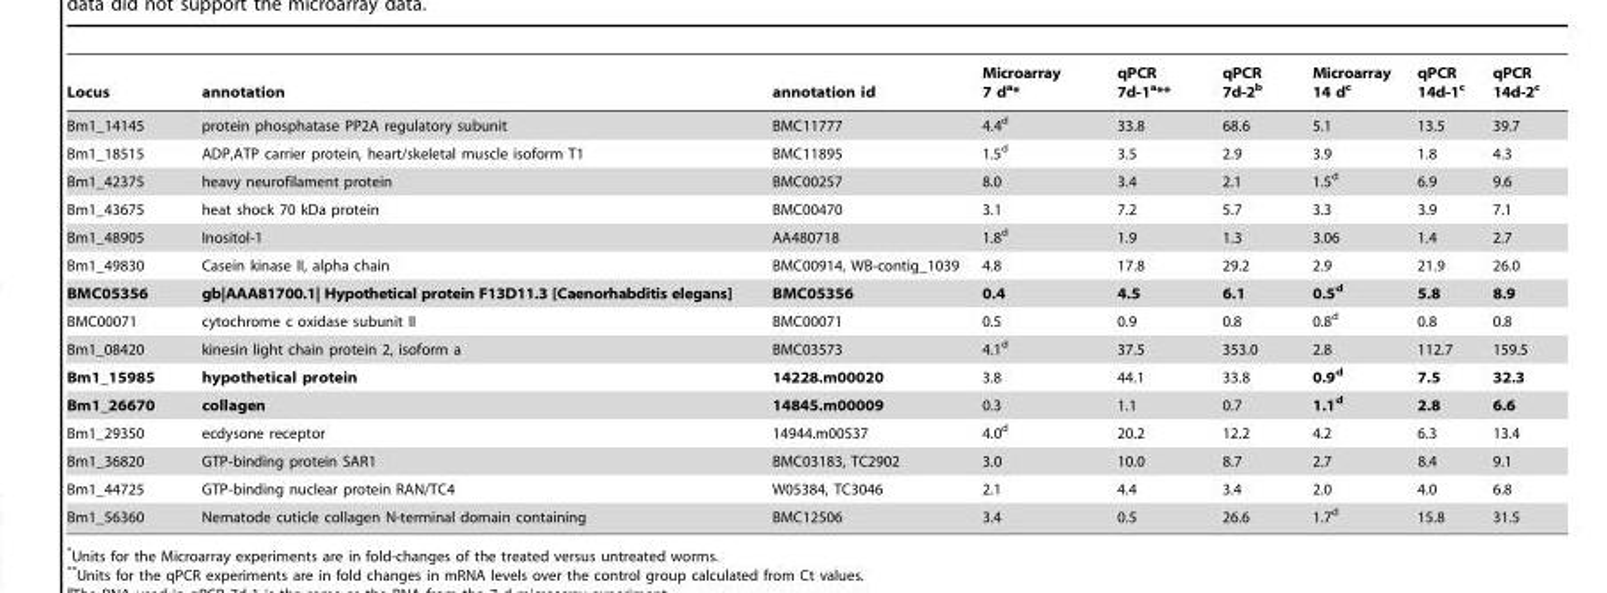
<table><thead><tr><td>Locus</td><td>annotation</td><td>annotation id</td><td>Microarray 7 d<sup>a</sup>*</td><td>qPCR 7d-1<sup>a</sup>**</td><td>qPCR 7d-2<sup>b</sup></td><td>Microarray 14 d<sup>c</sup></td><td>qPCR 14d-1<sup>c</sup></td><td>qPCR 14d-2<sup>c</sup></td></tr></thead><tbody><tr><td>Bm1_14145</td><td>protein phosphatase PP2A regulatory subunit</td><td>BMC11777</td><td>4.4<sup>d</sup></td><td>33.8</td><td>68.6</td><td>5.1</td><td>13.5</td><td>39.7</td></tr><tr><td>Bm1_18515</td><td>ADP,ATP carrier protein, heart/skeletal muscle isoform T1</td><td>BMC11895</td><td>1.5<sup>d</sup></td><td>3.5</td><td>2.9</td><td>3.9</td><td>1.8</td><td>4.3</td></tr><tr><td>Bm1_42375</td><td>heavy neurofilament protein</td><td>BMC00257</td><td>8.0</td><td>3.4</td><td>2.1</td><td>1.5<sup>d</sup></td><td>6.9</td><td>9.6</td></tr><tr><td>Bm1_43675</td><td>heat shock 70 kDa protein</td><td>BMC00470</td><td>3.1</td><td>7.2</td><td>5.7</td><td>3.3</td><td>3.9</td><td>7.1</td></tr><tr><td>Bm1_48905</td><td>Inositol-1</td><td>AA480718</td><td>1.8<sup>d</sup></td><td>1.9</td><td>1.3</td><td>3.06</td><td>1.4</td><td>2.7</td></tr><tr><td>Bm1_49830</td><td>Casein kinase II, alpha chain</td><td>BMC00914, WB-contig_1039</td><td>4.8</td><td>17.8</td><td>29.2</td><td>2.9</td><td>21.9</td><td>26.0</td></tr><tr><td>BMC05356</td><td>gb|AAA81700.1| Hypothetical protein F13D11.3 [Caenorhabditis elegans]</td><td>BMC05356</td><td>0.4</td><td>4.5</td><td>6.1</td><td>0.5d</td><td>5.8</td><td>8.9</td></tr><tr><td>BMC00071</td><td>cytochrome c oxidase subunit II</td><td>BMC00071</td><td>0.5</td><td>0.9</td><td>0.8</td><td>0.8<sup>d</sup></td><td>0.8</td><td>0.8</td></tr><tr><td>Bm1_08420</td><td>kinesin light chain protein 2, isoform a</td><td>BMC03573</td><td>4.1<sup>d</sup></td><td>37.5</td><td>353.0</td><td>2.8</td><td>112.7</td><td>159.5</td></tr><tr><td>Bm1_15985</td><td>hypothetical protein</td><td>14228.m00020</td><td>3.8</td><td>44.1</td><td>33.8</td><td>0.9d</td><td>7.5</td><td>32.3</td></tr><tr><td>Bm1_26670</td><td>collagen</td><td>14845.m00009</td><td>0.3</td><td>1.1</td><td>0.7</td><td>1.1d</td><td>2.8</td><td>6.6</td></tr><tr><td>Bm1_29350</td><td>ecdysone receptor</td><td>14944.m00537</td><td>4.0<sup>d</sup></td><td>20.2</td><td>12.2</td><td>4.2</td><td>6.3</td><td>13.4</td></tr><tr><td>Bm1_36820</td><td>GTP-binding protein SAR1</td><td>BMC03183, TC2902</td><td>3.0</td><td>10.0</td><td>8.7</td><td>2.7</td><td>8.4</td><td>9.1</td></tr><tr><td>Bm1_44725</td><td>GTP-binding nuclear protein RAN/TC4</td><td>W05384, TC3046</td><td>2.1</td><td>4.4</td><td>3.4</td><td>2.0</td><td>4.0</td><td>6.8</td></tr><tr><td>Bm1_56360</td><td>Nematode cuticle collagen N-terminal domain containing</td><td>BMC12506</td><td>3.4</td><td>0.5</td><td>26.6</td><td>1.7<sup>d</sup></td><td>15.8</td><td>31.5</td></tr></tbody></table>